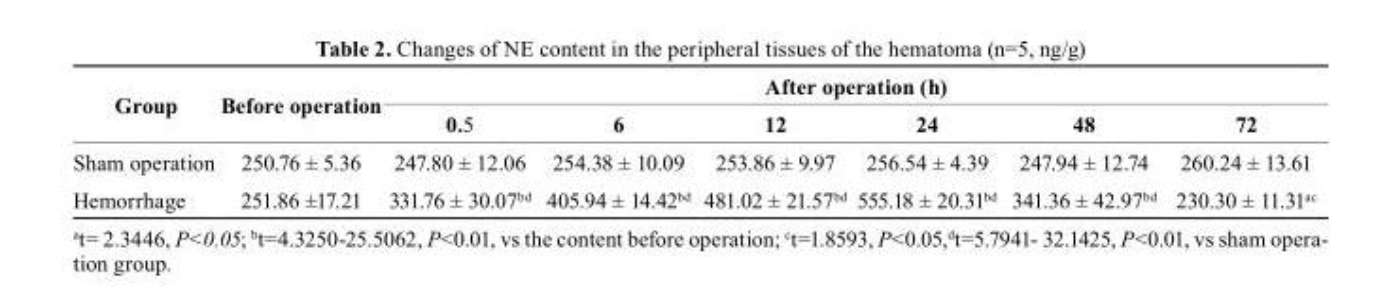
<table><thead><tr><td rowspan="2">Group</td><td rowspan="2">before operation</td><td colspan="6">After operation (h)</td></tr><tr><td>0.5</td><td>6</td><td>12</td><td>24</td><td>48</td><td>72</td></tr></thead><tbody><tr><td>Sham operation</td><td>250.76 ± 5.36</td><td>247.80 ± 12.06</td><td>254.38 ± 10.09</td><td>253.86 ± 9.97</td><td>256.54 ± 4.39</td><td>247.94 ± 12.74</td><td>260.24 ± 13.61</td></tr><tr><td>Hemorrhage</td><td>251.86 ±17.21</td><td>331.76 ± 30.07<sup>bd</sup></td><td>405.94 ± 14.42<sup>bd</sup></td><td>481.02 ± 21.57<sup>bd</sup></td><td>555.18 ± 20.31<sup>bd</sup></td><td>341.36 ± 42.97<sup>bd</sup></td><td>230.30 ± 11.31<sup>ac</sup></td></tr></tbody></table>